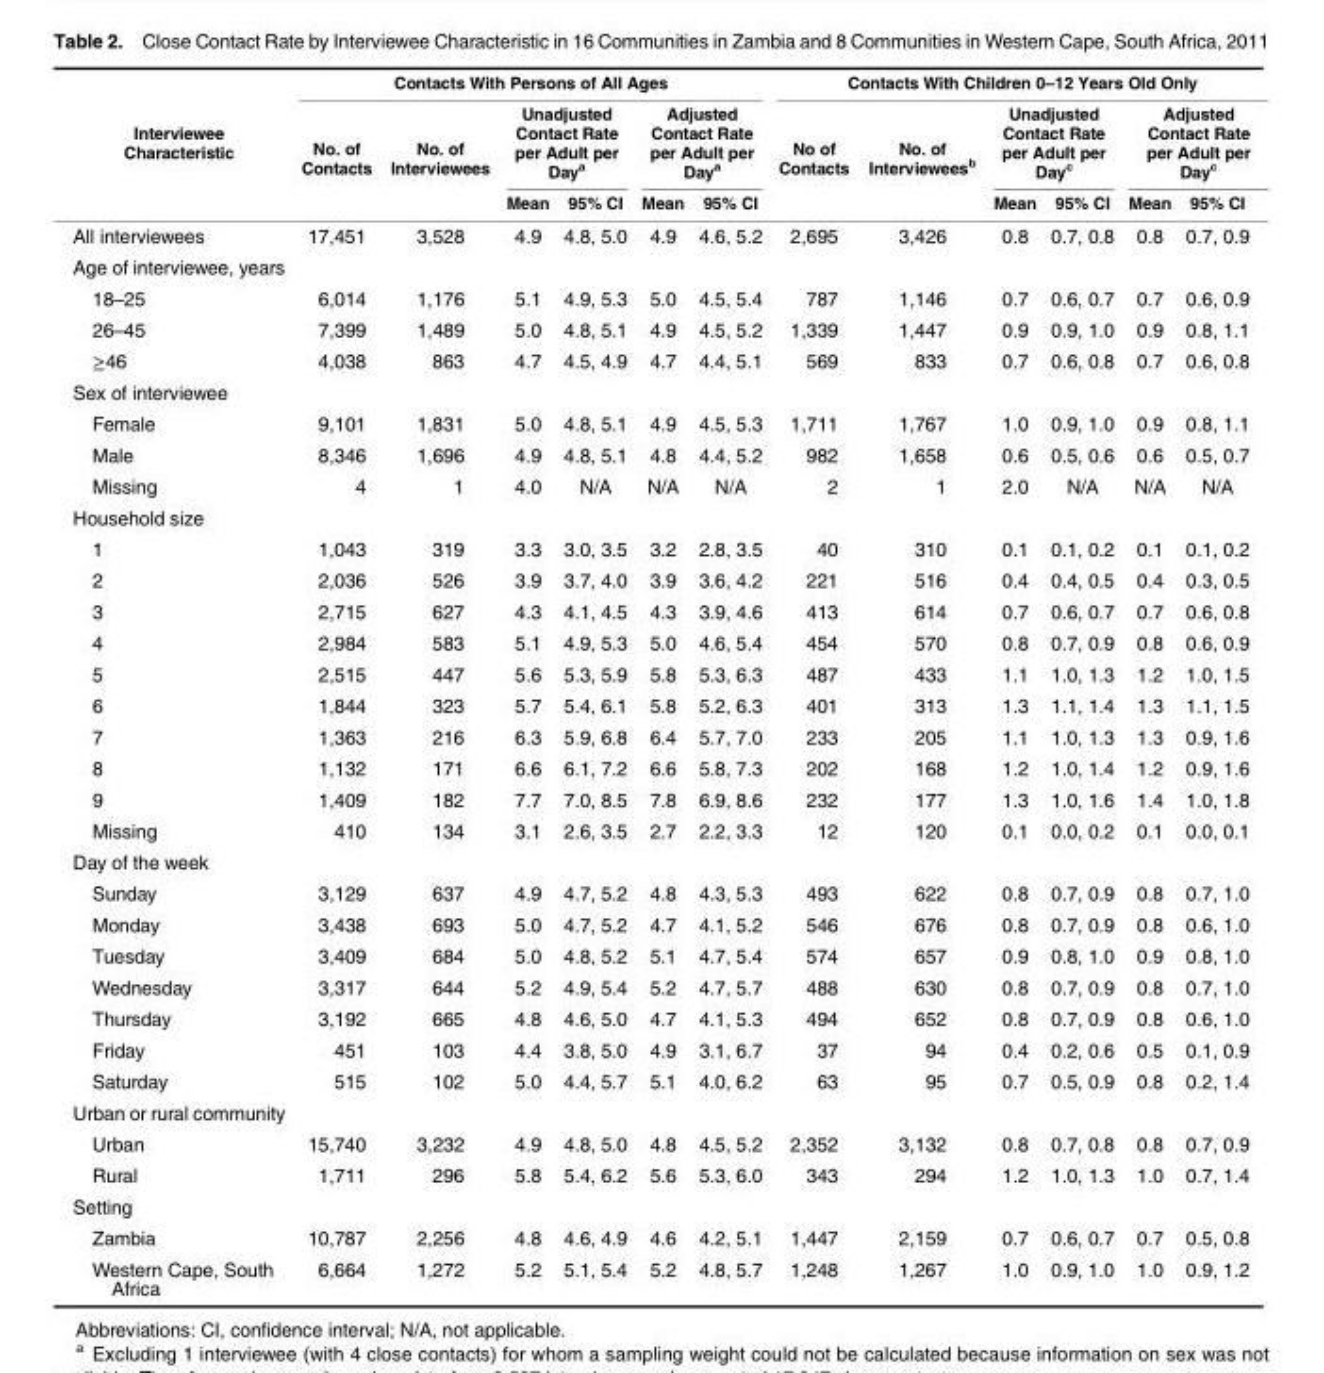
<table><thead><tr><td rowspan="3">Interviewee Characteristic</td><td colspan="6">Contacts With Persons of All Ages</td><td colspan="6">Contacts With Children 0–12 Years Old Only</td></tr><tr><td rowspan="2">No. of Contacts</td><td rowspan="2">No. of Interviewees</td><td colspan="2">Unadjusted Contact Rate per Adult per Day<sup>a</sup></td><td colspan="2">Adjusted Contact Rate per Adult per Day<sup>a</sup></td><td rowspan="2">No of Contacts</td><td rowspan="2">No. of Interviewees<sup>b</sup></td><td colspan="2">Unadjusted Contact Rate per Adult per Day<sup>c</sup></td><td colspan="2">Adjusted Contact Rate per Adult per Day<sup>c</sup></td></tr><tr><td>Mean</td><td>95% CI</td><td>Mean</td><td>95% CI</td><td>Mean</td><td>95% CI</td><td>Mean</td><td>95% CI</td></tr></thead><tbody><tr><td>All interviewees</td><td>17,451</td><td>3,528</td><td>4.9</td><td>4.8, 5.0</td><td>4.9</td><td>4.6, 5.2</td><td>2,695</td><td>3,426</td><td>0.8</td><td>0.7, 0.8</td><td>0.8</td><td>0.7, 0.9</td></tr><tr><td colspan="13">Age of interviewee, years</td></tr><tr><td>18–25</td><td>6,014</td><td>1,176</td><td>5.1</td><td>4.9, 5.3</td><td>5.0</td><td>4.5, 5.4</td><td>787</td><td>1,146</td><td>0.7</td><td>0.6, 0.7</td><td>0.7</td><td>0.6, 0.9</td></tr><tr><td>26–45</td><td>7,399</td><td>1,489</td><td>5.0</td><td>4.8, 5.1</td><td>4.9</td><td>4.5, 5.2</td><td>1,339</td><td>1,447</td><td>0.9</td><td>0.9, 1.0</td><td>0.9</td><td>0.8, 1.1</td></tr><tr><td>≥46</td><td>4,038</td><td>863</td><td>4.7</td><td>4.5, 4.9</td><td>4.7</td><td>4.4, 5.1</td><td>569</td><td>833</td><td>0.7</td><td>0.6, 0.8</td><td>0.7</td><td>0.6, 0.8</td></tr><tr><td colspan="13">Sex of interviewee</td></tr><tr><td>Female</td><td>9,101</td><td>1,831</td><td>5.0</td><td>4.8, 5.1</td><td>4.9</td><td>4.5, 5.3</td><td>1,711</td><td>1,767</td><td>1.0</td><td>0.9, 1.0</td><td>0.9</td><td>0.8, 1.1</td></tr><tr><td>Male</td><td>8,346</td><td>1,696</td><td>4.9</td><td>4.8, 5.1</td><td>4.8</td><td>4.4, 5.2</td><td>982</td><td>1,658</td><td>0.6</td><td>0.5, 0.6</td><td>0.6</td><td>0.5, 0.7</td></tr><tr><td>Missing</td><td>4</td><td>1</td><td>4.0</td><td>N/A</td><td>N/A</td><td>N/A</td><td>2</td><td>1</td><td>2.0</td><td>N/A</td><td>N/A</td><td>N/A</td></tr><tr><td colspan="13">Household size</td></tr><tr><td>1</td><td>1,043</td><td>319</td><td>3.3</td><td>3.0, 3.5</td><td>3.2</td><td>2.8, 3.5</td><td>40</td><td>310</td><td>0.1</td><td>0.1, 0.2</td><td>0.1</td><td>0.1, 0.2</td></tr><tr><td>2</td><td>2,036</td><td>526</td><td>3.9</td><td>3.7, 4.0</td><td>3.9</td><td>3.6, 4.2</td><td>221</td><td>516</td><td>0.4</td><td>0.4, 0.5</td><td>0.4</td><td>0.3, 0.5</td></tr><tr><td>3</td><td>2,715</td><td>627</td><td>4.3</td><td>4.1, 4.5</td><td>4.3</td><td>3.9, 4.6</td><td>413</td><td>614</td><td>0.7</td><td>0.6, 0.7</td><td>0.7</td><td>0.6, 0.8</td></tr><tr><td>4</td><td>2,984</td><td>583</td><td>5.1</td><td>4.9, 5.3</td><td>5.0</td><td>4.6, 5.4</td><td>454</td><td>570</td><td>0.8</td><td>0.7, 0.9</td><td>0.8</td><td>0.6, 0.9</td></tr><tr><td>5</td><td>2,515</td><td>447</td><td>5.6</td><td>5.3, 5.9</td><td>5.8</td><td>5.3, 6.3</td><td>487</td><td>433</td><td>1.1</td><td>1.0, 1.3</td><td>1.2</td><td>1.0, 1.5</td></tr><tr><td>6</td><td>1,844</td><td>323</td><td>5.7</td><td>5.4, 6.1</td><td>5.8</td><td>5.2, 6.3</td><td>401</td><td>313</td><td>1.3</td><td>1.1, 1.4</td><td>1.3</td><td>1.1, 1.5</td></tr><tr><td>7</td><td>1,363</td><td>216</td><td>6.3</td><td>5.9, 6.8</td><td>6.4</td><td>5.7, 7.0</td><td>233</td><td>205</td><td>1.1</td><td>1.0, 1.3</td><td>1.3</td><td>0.9, 1.6</td></tr><tr><td>8</td><td>1,132</td><td>171</td><td>6.6</td><td>6.1, 7.2</td><td>6.6</td><td>5.8, 7.3</td><td>202</td><td>168</td><td>1.2</td><td>1.0, 1.4</td><td>1.2</td><td>0.9, 1.6</td></tr><tr><td>9</td><td>1,409</td><td>182</td><td>7.7</td><td>7.0, 8.5</td><td>7.8</td><td>6.9, 8.6</td><td>232</td><td>177</td><td>1.3</td><td>1.0, 1.6</td><td>1.4</td><td>1.0, 1.8</td></tr><tr><td>Missing</td><td>410</td><td>134</td><td>3.1</td><td>2.6, 3.5</td><td>2.7</td><td>2.2, 3.3</td><td>12</td><td>120</td><td>0.1</td><td>0.0, 0.2</td><td>0.1</td><td>0.0, 0.1</td></tr><tr><td colspan="13">Day of the week</td></tr><tr><td>Sunday</td><td>3,129</td><td>637</td><td>4.9</td><td>4.7, 5.2</td><td>4.8</td><td>4.3, 5.3</td><td>493</td><td>622</td><td>0.8</td><td>0.7, 0.9</td><td>0.8</td><td>0.7, 1.0</td></tr><tr><td>Monday</td><td>3,438</td><td>693</td><td>5.0</td><td>4.7, 5.2</td><td>4.7</td><td>4.1, 5.2</td><td>546</td><td>676</td><td>0.8</td><td>0.7, 0.9</td><td>0.8</td><td>0.6, 1.0</td></tr><tr><td>Tuesday</td><td>3,409</td><td>684</td><td>5.0</td><td>4.8, 5.2</td><td>5.1</td><td>4.7, 5.4</td><td>574</td><td>657</td><td>0.9</td><td>0.8, 1.0</td><td>0.9</td><td>0.8, 1.0</td></tr><tr><td>Wednesday</td><td>3,317</td><td>644</td><td>5.2</td><td>4.9, 5.4</td><td>5.2</td><td>4.7, 5.7</td><td>488</td><td>630</td><td>0.8</td><td>0.7, 0.9</td><td>0.8</td><td>0.7, 1.0</td></tr><tr><td>Thursday</td><td>3,192</td><td>665</td><td>4.8</td><td>4.6, 5.0</td><td>4.7</td><td>4.1, 5.3</td><td>494</td><td>652</td><td>0.8</td><td>0.7, 0.9</td><td>0.8</td><td>0.6, 1.0</td></tr><tr><td>Friday</td><td>451</td><td>103</td><td>4.4</td><td>3.8, 5.0</td><td>4.9</td><td>3.1, 6.7</td><td>37</td><td>94</td><td>0.4</td><td>0.2, 0.6</td><td>0.5</td><td>0.1, 0.9</td></tr><tr><td>Saturday</td><td>515</td><td>102</td><td>5.0</td><td>4.4, 5.7</td><td>5.1</td><td>4.0, 6.2</td><td>63</td><td>95</td><td>0.7</td><td>0.5, 0.9</td><td>0.8</td><td>0.2, 1.4</td></tr><tr><td colspan="13">Urban or rural community</td></tr><tr><td>Urban</td><td>15,740</td><td>3,232</td><td>4.9</td><td>4.8, 5.0</td><td>4.8</td><td>4.5, 5.2</td><td>2,352</td><td>3,132</td><td>0.8</td><td>0.7, 0.8</td><td>0.8</td><td>0.7, 0.9</td></tr><tr><td>Rural</td><td>1,711</td><td>296</td><td>5.8</td><td>5.4, 6.2</td><td>5.6</td><td>5.3, 6.0</td><td>343</td><td>294</td><td>1.2</td><td>1.0, 1.3</td><td>1.0</td><td>0.7, 1.4</td></tr><tr><td colspan="13">Setting</td></tr><tr><td>Zambia</td><td>10,787</td><td>2,256</td><td>4.8</td><td>4.6, 4.9</td><td>4.6</td><td>4.2, 5.1</td><td>1,447</td><td>2,159</td><td>0.7</td><td>0.6, 0.7</td><td>0.7</td><td>0.5, 0.8</td></tr><tr><td>Western Cape, South Africa</td><td>6,664</td><td>1,272</td><td>5.2</td><td>5.1, 5.4</td><td>5.2</td><td>4.8, 5.7</td><td>1,248</td><td>1,267</td><td>1.0</td><td>0.9, 1.0</td><td>1.0</td><td>0.9, 1.2</td></tr></tbody></table>